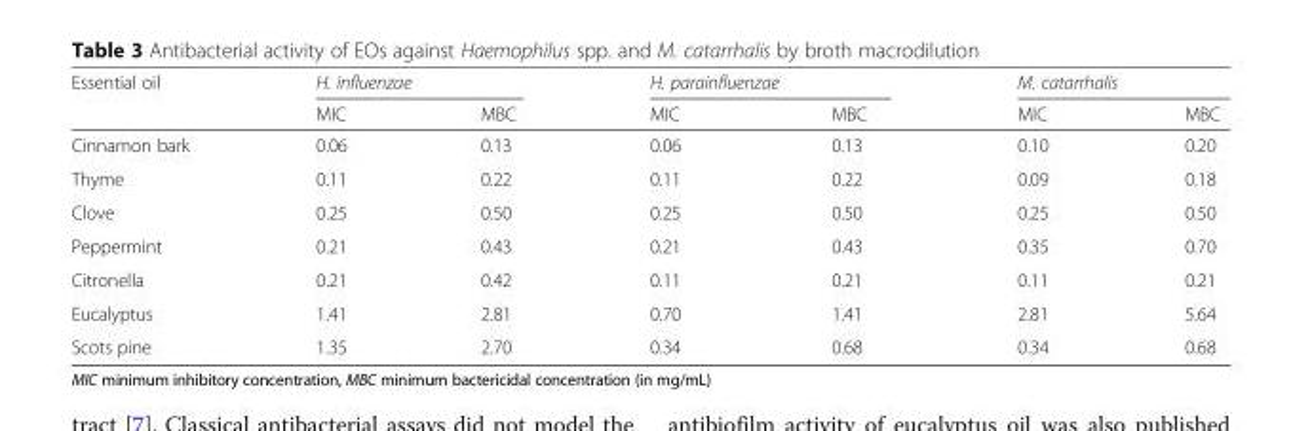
<table><thead><tr><td rowspan="2">Essential oil</td><td colspan="2">H. influenzae</td><td colspan="2">H. parainfluenzae</td><td colspan="2">M. catarrhalis</td></tr><tr><td>MIC</td><td>MBC</td><td>MIC</td><td>MBC</td><td>MIC</td><td>MBC</td></tr></thead><tbody><tr><td>Cinnamon bark</td><td>0.06</td><td>0.13</td><td>0.06</td><td>0.13</td><td>0.10</td><td>0.20</td></tr><tr><td>Thyme</td><td>0.11</td><td>0.22</td><td>0.11</td><td>0.22</td><td>0.09</td><td>0.18</td></tr><tr><td>Clove</td><td>0.25</td><td>0.50</td><td>0.25</td><td>0.50</td><td>0.25</td><td>0.50</td></tr><tr><td>Peppermint</td><td>0.21</td><td>0.43</td><td>0.21</td><td>0.43</td><td>0.35</td><td>0.70</td></tr><tr><td>Citronella</td><td>0.21</td><td>0.42</td><td>0.11</td><td>0.21</td><td>0.11</td><td>0.21</td></tr><tr><td>Eucalyptus</td><td>1.41</td><td>2.81</td><td>0.70</td><td>1.41</td><td>2.81</td><td>5.64</td></tr><tr><td>Scots pine</td><td>1.35</td><td>2.70</td><td>0.34</td><td>0.68</td><td>0.34</td><td>0.68</td></tr></tbody></table>